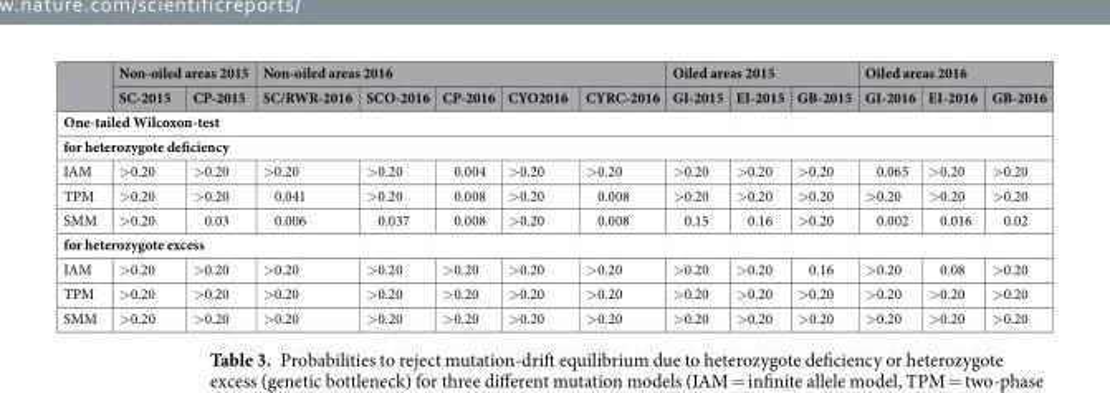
<table><thead><tr><td rowspan="2"></td><td colspan="2">Non-oiled areas 2015</td><td colspan="5">Non-oiled areas 2016</td><td colspan="3">Oiled areas 2015</td><td colspan="3">Oiled areas 2016</td></tr><tr><td>SC-2015</td><td>CP-2015</td><td>SC/RWR-2016</td><td>SCO-2016</td><td>CP-2016</td><td>CYO2016</td><td>CYRC-2016</td><td>GI-2015</td><td>EI-2015</td><td>GB-2015</td><td>GI-2016</td><td>EI-2016</td><td>GB-2016</td></tr></thead><tbody><tr><td colspan="14">One-tailed Wilcoxon-test</td></tr><tr><td colspan="14">for heterozygote deficiency</td></tr><tr><td>IAM</td><td>&gt;0.20</td><td>&gt;0.20</td><td>&gt;0.20</td><td>&gt;0.20</td><td>0.004</td><td>&gt;0.20</td><td>&gt;0.20</td><td>&gt;0.20</td><td>&gt;0.20</td><td>&gt;0.20</td><td>0.065</td><td>&gt;0.20</td><td>&gt;0.20</td></tr><tr><td>TPM</td><td>&gt;0.20</td><td>&gt;0.20</td><td>0.041</td><td>&gt;0.20</td><td>0.008</td><td>&gt;0.20</td><td>0.008</td><td>&gt;0.20</td><td>&gt;0.20</td><td>&gt;0.20</td><td>&gt;0.20</td><td>&gt;0.20</td><td>&gt;0.20</td></tr><tr><td>SMM</td><td>&gt;0.20</td><td>0.03</td><td>0.006</td><td>0.037</td><td>0.008</td><td>&gt;0.20</td><td>0.008</td><td>0.15</td><td>0.16</td><td>&gt;0.20</td><td>0.002</td><td>0.016</td><td>0.02</td></tr><tr><td colspan="14">for heterozygote excess</td></tr><tr><td>IAM</td><td>&gt;0.20</td><td>&gt;0.20</td><td>&gt;0.20</td><td>&gt;0.20</td><td>&gt;0.20</td><td>&gt;0.20</td><td>&gt;0.20</td><td>&gt;0.20</td><td>&gt;0.20</td><td>0.16</td><td>&gt;0.20</td><td>0.08</td><td>&gt;0.20</td></tr><tr><td>TPM</td><td>&gt;0.20</td><td>&gt;0.20</td><td>&gt;0.20</td><td>&gt;0.20</td><td>&gt;0.20</td><td>&gt;0.20</td><td>&gt;0.20</td><td>&gt;0.20</td><td>&gt;0.20</td><td>&gt;0.20</td><td>&gt;0.20</td><td>&gt;0.20</td><td>&gt;0.20</td></tr><tr><td>SMM</td><td>&gt;0.20</td><td>&gt;0.20</td><td>&gt;0.20</td><td>&gt;0.20</td><td>&gt;0.20</td><td>&gt;0.20</td><td>&gt;0.20</td><td>&gt;0.20</td><td>&gt;0.20</td><td>&gt;0.20</td><td>&gt;0.20</td><td>&gt;0.20</td><td>&gt;0.20</td></tr></tbody></table>